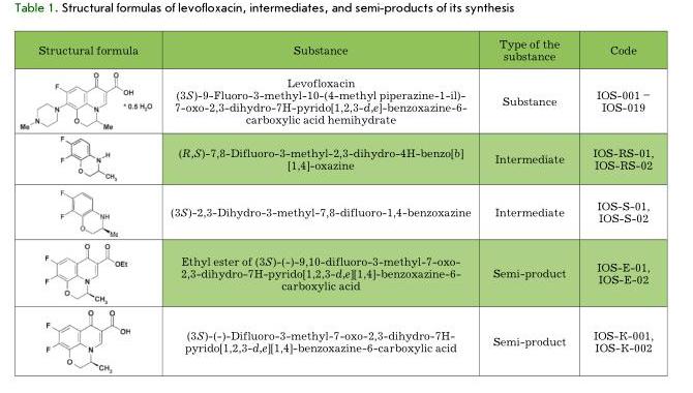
<table><thead><tr><td>Structural formula</td><td>Substance</td><td>type of the substance</td><td>code</td></tr></thead><tbody><tr><td></td><td>Levofloxacin (3S)-9-Fluoro-3-methyl-10-(4-methyl piperazine-1-il)- 7-oxo-2,3-dihydro-7H-pyrido[1,2,3-d,e]-benzoxazine-6- carboxylic acid hemihydrate</td><td>Substance</td><td>IOS-001 – IOS-019</td></tr><tr><td></td><td>(R,S)-7,8-Difluoro-3-methyl-2,3-dihydro-4H-benzo[b] [1,4]-oxazine</td><td>Intermediate</td><td>IOS-rS-01, IOS-rS-02</td></tr><tr><td></td><td>(3S)-2,3-Dihydro-3-methyl-7,8-difluoro-1,4-benzoxazine</td><td>Intermediate</td><td>IOS-S-01, IOS-S-02</td></tr><tr><td></td><td>ethyl ester of (3S)-(-)-9,10-difluoro-3-methyl-7-oxo- 2,3-dihydro-7H-pyrido[1,2,3-d,e][1,4]-benzoxazine-6- carboxylic acid</td><td>Semi-product</td><td>IOS-Е-01, IOS-Е-02</td></tr><tr><td></td><td>(3S)-(-)-Difluoro-3-methyl-7-oxo-2,3-dihydro-7H- pyrido[1,2,3-d,e][1,4]-benzoxazine-6-carboxylic acid</td><td>Semi-product</td><td>IOS-К-001, IOS-К-002</td></tr></tbody></table>